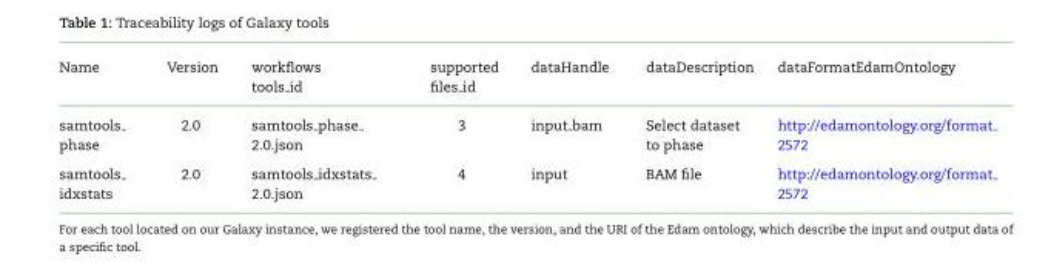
<table><thead><tr><td rowspan="2">Name</td><td rowspan="2">Version</td><td rowspan="2">workflows tools id</td><td rowspan="2">supported files id</td><td rowspan="2">dataHandle</td><td rowspan="2">dataDescription</td><td rowspan="2">dataFormatEdamOntology</td></tr><tr></tr></thead><tbody><tr><td>samtools phase</td><td>2.0</td><td>samtools <sub>phase</sub> 2.0.json</td><td>3</td><td>input bam</td><td>Select dataset to phase</td><td>http://edamontology.org/format 2572</td></tr><tr><td>samtools idxstats</td><td>2.0</td><td>samtools <sub>idxstats</sub> 2.0.json</td><td>4</td><td>input</td><td>BAM file</td><td>http://edamontology.org/format 2572</td></tr></tbody></table>